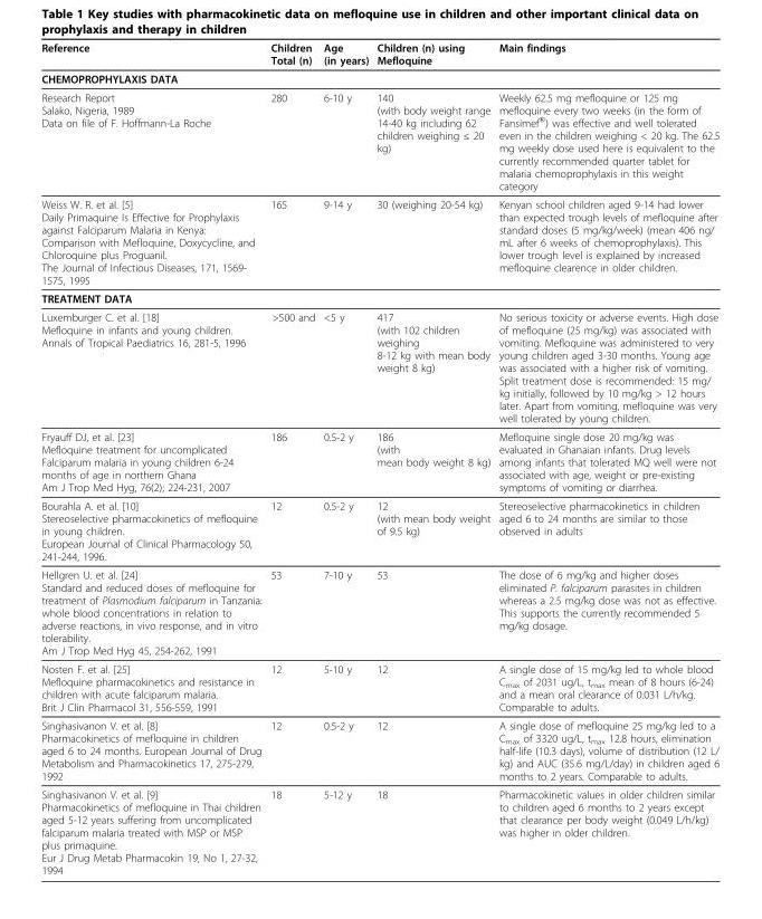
<table><thead><tr><td>Reference</td><td>Children Total (n)</td><td>Age (in years)</td><td>Children (n) using Mefloquine</td><td>Main findings</td></tr></thead><tbody><tr><td colspan="5">CHEMOPROPHYLAXIS DATA</td></tr><tr><td>Research Report Salako, Nigeria, 1989 Data on file of F. Hoffmann-La Roche</td><td>280</td><td>6-10 y</td><td>140 (with body weight range 14-40 kg including 62 children weighing ≤ 20 kg)</td><td>Weekly 62.5 mg mefloquine or 125 mg mefloquine every two weeks (in the form of Fansimef<sup>®</sup>) was effective and well tolerated even in the children weighing &lt; 20 kg. The 62.5 mg weekly dose used here is equivalent to the currently recommended quarter tablet for malaria chemoprophylaxis in this weight category</td></tr><tr><td>Weiss W. R. et al. [5] Daily Primaquine Is Effective for Prophylaxis against Falciparum Malaria in Kenya: Comparison with Mefloquine, Doxycycline, and Chloroquine plus Proguanil. The Journal of Infectious Diseases, 171, 1569- 1575, 1995</td><td>165</td><td>9-14 y</td><td>30 (weighing 20-54 kg)</td><td>Kenyan school children aged 9-14 had lower than expected trough levels of mefloquine after standard doses (5 mg/kg/week) (mean 406 ng/ mL after 6 weeks of chemoprophylaxis). This lower trough level is explained by increased mefloquine clearence in older children.</td></tr><tr><td colspan="5">TREATMENT DATA</td></tr><tr><td>Luxemburger C. et al. [18] Mefloquine in infants and young children. Annals of Tropical Paediatrics 16, 281-5, 1996</td><td>&gt;500 and</td><td>&lt;5 y</td><td>417 (with 102 children weighing 8-12 kg with mean body weight 8 kg)</td><td>No serious toxicity or adverse events. High dose of mefloquine (25 mg/kg) was associated with vomiting. Mefloquine was administered to very young children aged 3-30 months. Young age was associated with a higher risk of vomiting. Split treatment dose is recommended: 15 mg/ kg initially, followed by 10 mg/kg &gt; 12 hours later. Apart from vomiting, mefloquine was very well tolerated by young children.</td></tr><tr><td>Fryauff DJ, et al. [23] Mefloquine treatment for uncomplicated Falciparum malaria in young children 6-24 months of age in northern Ghana Am J Trop Med Hyg, 76(2); 224-231, 2007</td><td>186</td><td>0.5-2 y</td><td>186 (with mean body weight 8 kg)</td><td>Mefloquine single dose 20 mg/kg was evaluated in Ghanaian infants. Drug levels among infants that tolerated MQ well were not associated with age, weight or pre-existing symptoms of vomiting or diarrhea.</td></tr><tr><td>Bourahla A. et al. [10] Stereoselective pharmacokinetics of mefloquine in young children. European Journal of Clinical Pharmacology 50, 241-244, 1996.</td><td>12</td><td>0.5-2 y</td><td>12 (with mean body weight of 9.5 kg)</td><td>Stereoselective pharmacokinetics in children aged 6 to 24 months are similar to those observed in adults</td></tr><tr><td>Hellgren U. et al. [24] Standard and reduced doses of mefloquine for treatment of Plasmodium falciparum in Tanzania: whole blood concentrations in relation to adverse reactions, in vivo response, and in vitro tolerability. Am J Trop Med Hyg 45, 254-262, 1991</td><td>53</td><td>7-10 y</td><td>53</td><td>The dose of 6 mg/kg and higher doses eliminated P. falciparum parasites in children whereas a 2.5 mg/kg dose was not as effective. This supports the currently recommended 5 mg/kg dosage.</td></tr><tr><td>Nosten F. et al. [25] Mefloquine pharmacokinetics and resistance in children with acute falciparum malaria. Brit J Clin Pharmacol 31, 556-559, 1991</td><td>12</td><td>5-10 y</td><td>12</td><td>A single dose of 15 mg/kg led to whole blood C<sub>max</sub> of 2031 ug/L, t<sub>max</sub> mean of 8 hours (6-24) and a mean oral clearance of 0.031 L/h/kg. Comparable to adults.</td></tr><tr><td>Singhasivanon V. et al. [8] Pharmacokinetics of mefloquine in children aged 6 to 24 months. European Journal of Drug Metabolism and Pharmacokinetics 17, 275-279, 1992</td><td>12</td><td>0.5-2 y</td><td>12</td><td>A single dose of mefloquine 25 mg/kg led to a C<sub>max</sub> of 3320 ug/L, t<sub>max</sub> 12.8 hours, elimination half-life (10.3 days), volume of distribution (12 L/ kg) and AUC (35.6 mg/L/day) in children aged 6 months to 2 years. Comparable to adults.</td></tr><tr><td>Singhasivanon V. et al. [9] Pharmacokinetics of mefloquine in Thai children aged 5-12 years suffering from uncomplicated falciparum malaria treated with MSP or MSP plus primaquine. Eur J Drug Metab Pharmacokin 19, No 1, 27-32, 1994</td><td>18</td><td>5-12 y</td><td>18</td><td>Pharmacokinetic values in older children similar to children aged 6 months to 2 years except that clearance per body weight (0.049 L/h/kg) was higher in older children.</td></tr></tbody></table>